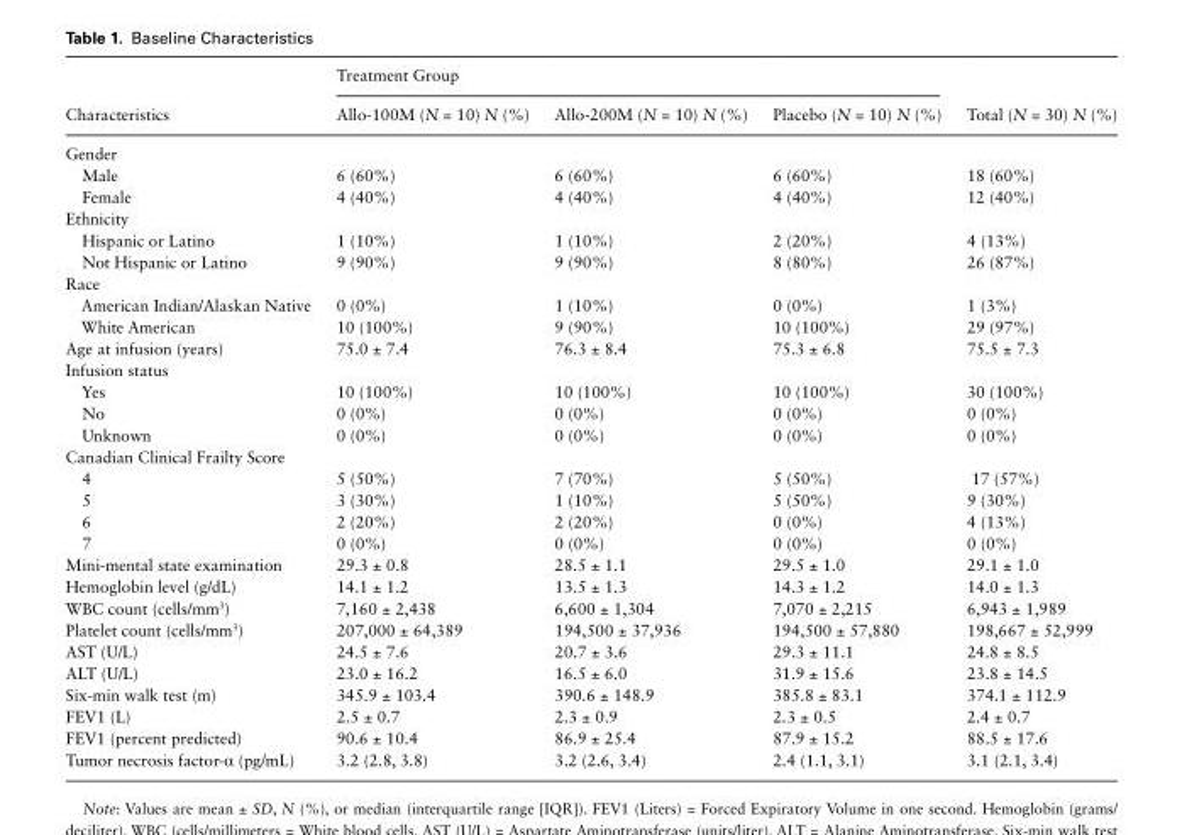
<table><thead><tr><td rowspan="2">Characteristics</td><td rowspan="2">Treatment Group Allo-100M (N = 10) N (%)</td><td rowspan="2">Allo-200M (N = 10) N (%)</td><td rowspan="2">Placebo (N = 10) N (%)</td><td rowspan="2">Total (N = 30) N (%)</td></tr><tr></tr></thead><tbody><tr><td colspan="5">Gender</td></tr><tr><td>Male</td><td>6 (60%)</td><td>6 (60%)</td><td>6 (60%)</td><td>18 (60%)</td></tr><tr><td>Female</td><td>4 (40%)</td><td>4 (40%)</td><td>4 (40%)</td><td>12 (40%)</td></tr><tr><td colspan="5">Ethnicity</td></tr><tr><td>Hispanic or Latino</td><td>1 (10%)</td><td>1 (10%)</td><td>2 (20%)</td><td>4 (13%)</td></tr><tr><td>Not Hispanic or Latino</td><td>9 (90%)</td><td>9 (90%)</td><td>8 (80%)</td><td>26 (87%)</td></tr><tr><td colspan="5">Race</td></tr><tr><td>American Indian/Alaskan Native</td><td>0 (0%)</td><td>1 (10%)</td><td>0 (0%)</td><td>1 (3%)</td></tr><tr><td>White American</td><td>10 (100%)</td><td>9 (90%)</td><td>10 (100%)</td><td>29 (97%)</td></tr><tr><td>Age at infusion (years)</td><td>75.0 ± 7.4</td><td>76.3 ± 8.4</td><td>75.3 ± 6.8</td><td>75.5 ± 7.3</td></tr><tr><td colspan="5">Infusion status</td></tr><tr><td>Yes</td><td>10 (100%)</td><td>10 (100%)</td><td>10 (100%)</td><td>30 (100%)</td></tr><tr><td>No</td><td>0 (0%)</td><td>0 (0%)</td><td>0 (0%)</td><td>0 (0%)</td></tr><tr><td>Unknown</td><td>0 (0%)</td><td>0 (0%)</td><td>0 (0%)</td><td>0 (0%)</td></tr><tr><td colspan="5">Canadian Clinical Frailty Score</td></tr><tr><td>4</td><td>5 (50%)</td><td>7 (70%)</td><td>5 (50%)</td><td>17 (57%)</td></tr><tr><td>5</td><td>3 (30%)</td><td>1 (10%)</td><td>5 (50%)</td><td>9 (30%)</td></tr><tr><td>6</td><td>2 (20%)</td><td>2 (20%)</td><td>0 (0%)</td><td>4 (13%)</td></tr><tr><td>7</td><td>0 (0%)</td><td>0 (0%)</td><td>0 (0%)</td><td>0 (0%)</td></tr><tr><td>Mini-mental state examination</td><td>29.3 ± 0.8</td><td>28.5 ± 1.1</td><td>29.5 ± 1.0</td><td>29.1 ± 1.0</td></tr><tr><td>Hemoglobin level (g/dL)</td><td>14.1 ± 1.2</td><td>13.5 ± 1.3</td><td>14.3 ± 1.2</td><td>14.0 ± 1.3</td></tr><tr><td>WBC count (cells/mm<sup>3</sup>)</td><td>7,160 ± 2,438</td><td>6,600 ± 1,304</td><td>7,070 ± 2,215</td><td>6,943 ± 1,989</td></tr><tr><td>Platelet count (cells/mm<sup>3</sup>)</td><td>207,000 ± 64,389</td><td>194,500 ± 37,936</td><td>194,500 ± 57,880</td><td>198,667 ± 52,999</td></tr><tr><td>AST (U/L)</td><td>24.5 ± 7.6</td><td>20.7 ± 3.6</td><td>29.3 ± 11.1</td><td>24.8 ± 8.5</td></tr><tr><td>ALT (U/L)</td><td>23.0 ± 16.2</td><td>16.5 ± 6.0</td><td>31.9 ± 15.6</td><td>23.8 ± 14.5</td></tr><tr><td>Six-min walk test (m)</td><td>345.9 ± 103.4</td><td>390.6 ± 148.9</td><td>385.8 ± 83.1</td><td>374.1 ± 112.9</td></tr><tr><td>FEV1 (L)</td><td>2.5 ± 0.7</td><td>2.3 ± 0.9</td><td>2.3 ± 0.5</td><td>2.4 ± 0.7</td></tr><tr><td>FEV1 (percent predicted)</td><td>90.6 ± 10.4</td><td>86.9 ± 25.4</td><td>87.9 ± 15.2</td><td>88.5 ± 17.6</td></tr><tr><td>Tumor necrosis factor-α (pg/mL)</td><td>3.2 (2.8, 3.8)</td><td>3.2 (2.6, 3.4)</td><td>2.4 (1.1, 3.1)</td><td>3.1 (2.1, 3.4)</td></tr></tbody></table>